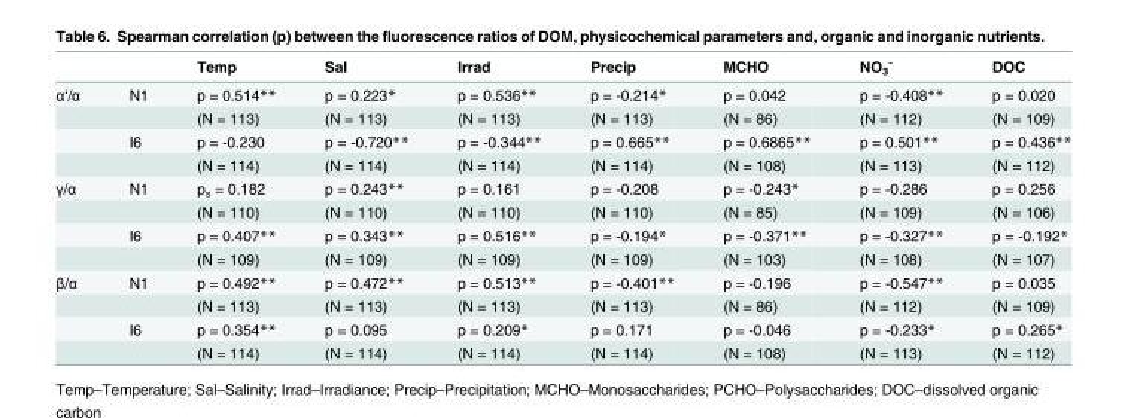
<table><thead><tr><td></td><td></td><td>Temp</td><td>Sal</td><td>Irrad</td><td>Precip</td><td>MCHO</td><td>NO<sub>3</sub> <sup>-</sup></td><td>DOC</td></tr></thead><tbody><tr><td rowspan="4">α‘/α</td><td>N1</td><td>p = 0.514**</td><td>p = 0.223*</td><td>p = 0.536**</td><td>p = -0.214*</td><td>p = 0.042</td><td>p = -0.408**</td><td>p = 0.020</td></tr><tr><td></td><td>(N = 113)</td><td>(N = 113)</td><td>(N = 113)</td><td>(N = 113)</td><td>(N = 86)</td><td>(N = 112)</td><td>(N = 109)</td></tr><tr><td>I6</td><td>p = -0.230</td><td>p = -0.720**</td><td>p = -0.344**</td><td>p = 0.665**</td><td>p = 0.6865**</td><td>p = 0.501**</td><td>p = 0.436**</td></tr><tr><td></td><td>(N = 114)</td><td>(N = 114)</td><td>(N = 114)</td><td>(N = 114)</td><td>(N = 108)</td><td>(N = 113)</td><td>(N = 112)</td></tr><tr><td rowspan="4">γ/α</td><td>N1</td><td>p<sub>s</sub> = 0.182</td><td>p = 0.243**</td><td>p = 0.161</td><td>p = -0.208</td><td>p = -0.243*</td><td>p = -0.286</td><td>p = 0.256</td></tr><tr><td></td><td>(N = 110)</td><td>(N = 110)</td><td>(N = 110)</td><td>(N = 110)</td><td>(N = 85)</td><td>(N = 109)</td><td>(N = 106)</td></tr><tr><td>I6</td><td>p = 0.407**</td><td>p = 0.343**</td><td>p = 0.516**</td><td>p = -0.194*</td><td>p = -0.371**</td><td>p = -0.327**</td><td>p = -0.192*</td></tr><tr><td></td><td>(N = 109)</td><td>(N = 109)</td><td>(N = 109)</td><td>(N = 109)</td><td>(N = 103)</td><td>(N = 108)</td><td>(N = 107)</td></tr><tr><td rowspan="4">β/α</td><td>N1</td><td>p = 0.492**</td><td>p = 0.472**</td><td>p = 0.513**</td><td>p = -0.401**</td><td>p = -0.196</td><td>p = -0.547**</td><td>p = 0.035</td></tr><tr><td></td><td>(N = 113)</td><td>(N = 113)</td><td>(N = 113)</td><td>(N = 113)</td><td>(N = 86)</td><td>(N = 112)</td><td>(N = 109)</td></tr><tr><td>I6</td><td>p = 0.354**</td><td>p = 0.095</td><td>p = 0.209*</td><td>p = 0.171</td><td>p = -0.046</td><td>p = -0.233*</td><td>p = 0.265*</td></tr><tr><td></td><td>(N = 114)</td><td>(N = 114)</td><td>(N = 114)</td><td>(N = 114)</td><td>(N = 108)</td><td>(N = 113)</td><td>(N = 112)</td></tr></tbody></table>